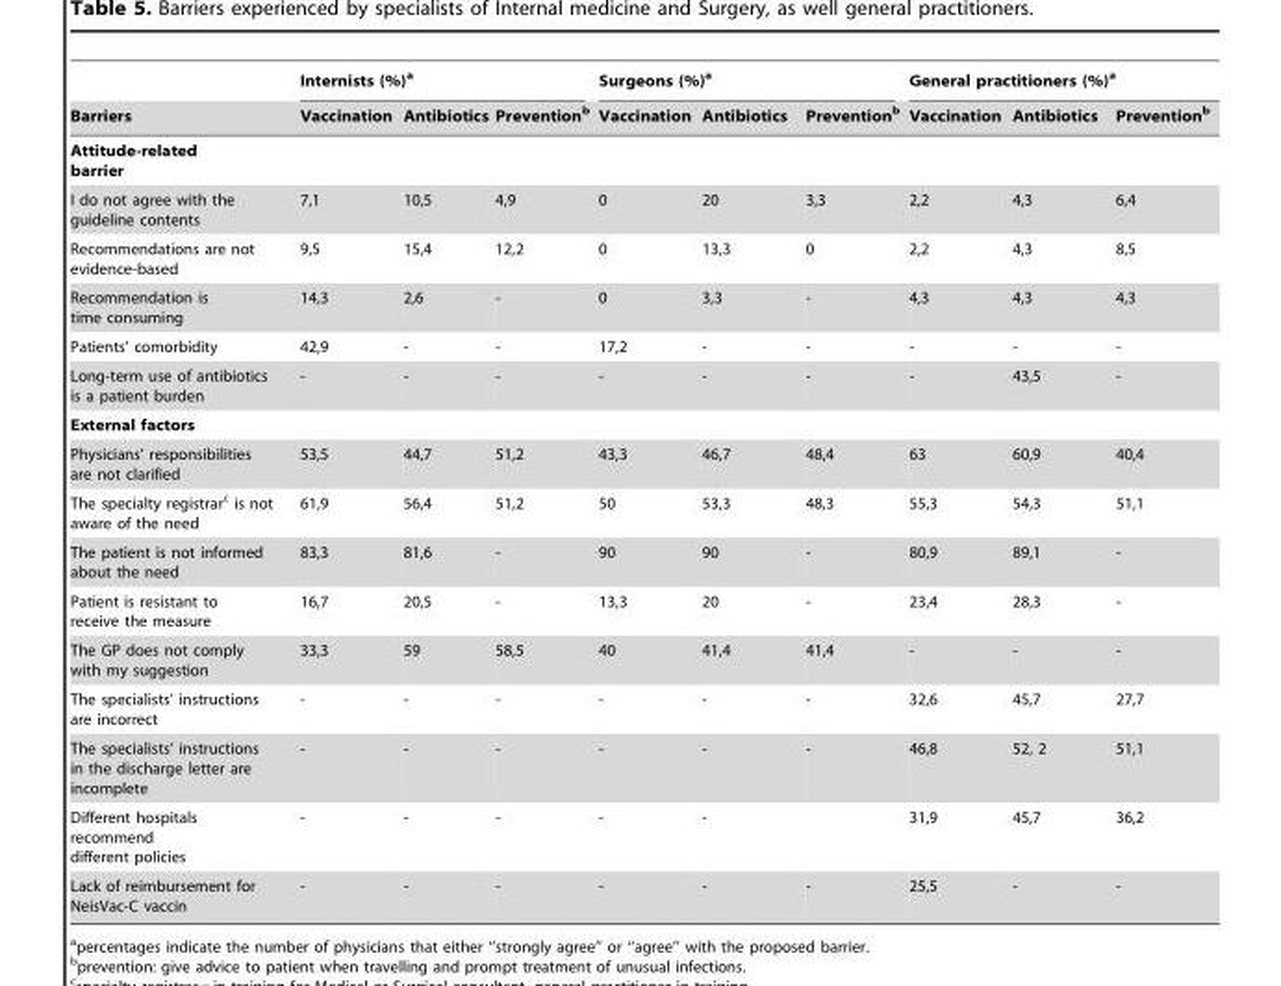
<table><thead><tr><td rowspan="2">Barriers</td><td colspan="3">Internists (%)<sup>a</sup></td><td colspan="3">Surgeons (%)<sup>a</sup></td><td colspan="3">General practitioners (%)<sup>a</sup></td></tr><tr><td>Vaccination</td><td>Antibiotics</td><td>Prevention<sup>b</sup></td><td>Vaccination</td><td>Antibiotics</td><td>Prevention<sup>b</sup></td><td>Vaccination</td><td>Antibiotics</td><td>Prevention<sup>b</sup></td></tr></thead><tbody><tr><td colspan="10">Attitude-related barrier</td></tr><tr><td>I do not agree with the guideline contents</td><td>7,1</td><td>10,5</td><td>4,9</td><td>0</td><td>20</td><td>3,3</td><td>2,2</td><td>4,3</td><td>6,4</td></tr><tr><td>Recommendations are not evidence-based</td><td>9,5</td><td>15,4</td><td>12,2</td><td>0</td><td>13,3</td><td>0</td><td>2,2</td><td>4,3</td><td>8,5</td></tr><tr><td>Recommendation is time consuming</td><td>14,3</td><td>2,6</td><td>-</td><td>0</td><td>3,3</td><td>-</td><td>4,3</td><td>4,3</td><td>4,3</td></tr><tr><td>Patients’ comorbidity</td><td>42,9</td><td>-</td><td>-</td><td>17,2</td><td>-</td><td>-</td><td>-</td><td>-</td><td>-</td></tr><tr><td>Long-term use of antibiotics is a patient burden</td><td>-</td><td>-</td><td>-</td><td>-</td><td>-</td><td>-</td><td>-</td><td>43,5</td><td>-</td></tr><tr><td colspan="10">External factors</td></tr><tr><td>Physicians’ responsibilities are not clarified</td><td>53,5</td><td>44,7</td><td>51,2</td><td>43,3</td><td>46,7</td><td>48,4</td><td>63</td><td>60,9</td><td>40,4</td></tr><tr><td>The specialty registrar<sup>c</sup> is not aware of the need</td><td>61,9</td><td>56,4</td><td>51,2</td><td>50</td><td>53,3</td><td>48,3</td><td>55,3</td><td>54,3</td><td>51,1</td></tr><tr><td>The patient is not informed about the need</td><td>83,3</td><td>81,6</td><td>-</td><td>90</td><td>90</td><td>-</td><td>80,9</td><td>89,1</td><td>-</td></tr><tr><td>Patient is resistant to receive the measure</td><td>16,7</td><td>20,5</td><td>-</td><td>13,3</td><td>20</td><td>-</td><td>23,4</td><td>28,3</td><td>-</td></tr><tr><td>The GP does not comply with my suggestion</td><td>33,3</td><td>59</td><td>58,5</td><td>40</td><td>41,4</td><td>41,4</td><td>-</td><td>-</td><td>-</td></tr><tr><td>The specialists’ instructions are incorrect</td><td>-</td><td>-</td><td>-</td><td>-</td><td>-</td><td>-</td><td>32,6</td><td>45,7</td><td>27,7</td></tr><tr><td>The specialists’ instructions in the discharge letter are incomplete</td><td>-</td><td>-</td><td>-</td><td>-</td><td>-</td><td>-</td><td>46,8</td><td>52, 2</td><td>51,1</td></tr><tr><td>Different hospitals recommend different policies</td><td>-</td><td>-</td><td>-</td><td>-</td><td>-</td><td></td><td>31,9</td><td>45,7</td><td>36,2</td></tr><tr><td>Lack of reimbursement for NeisVac-C vaccin</td><td>-</td><td>-</td><td>-</td><td>-</td><td>-</td><td>-</td><td>25,5</td><td>-</td><td>-</td></tr></tbody></table>